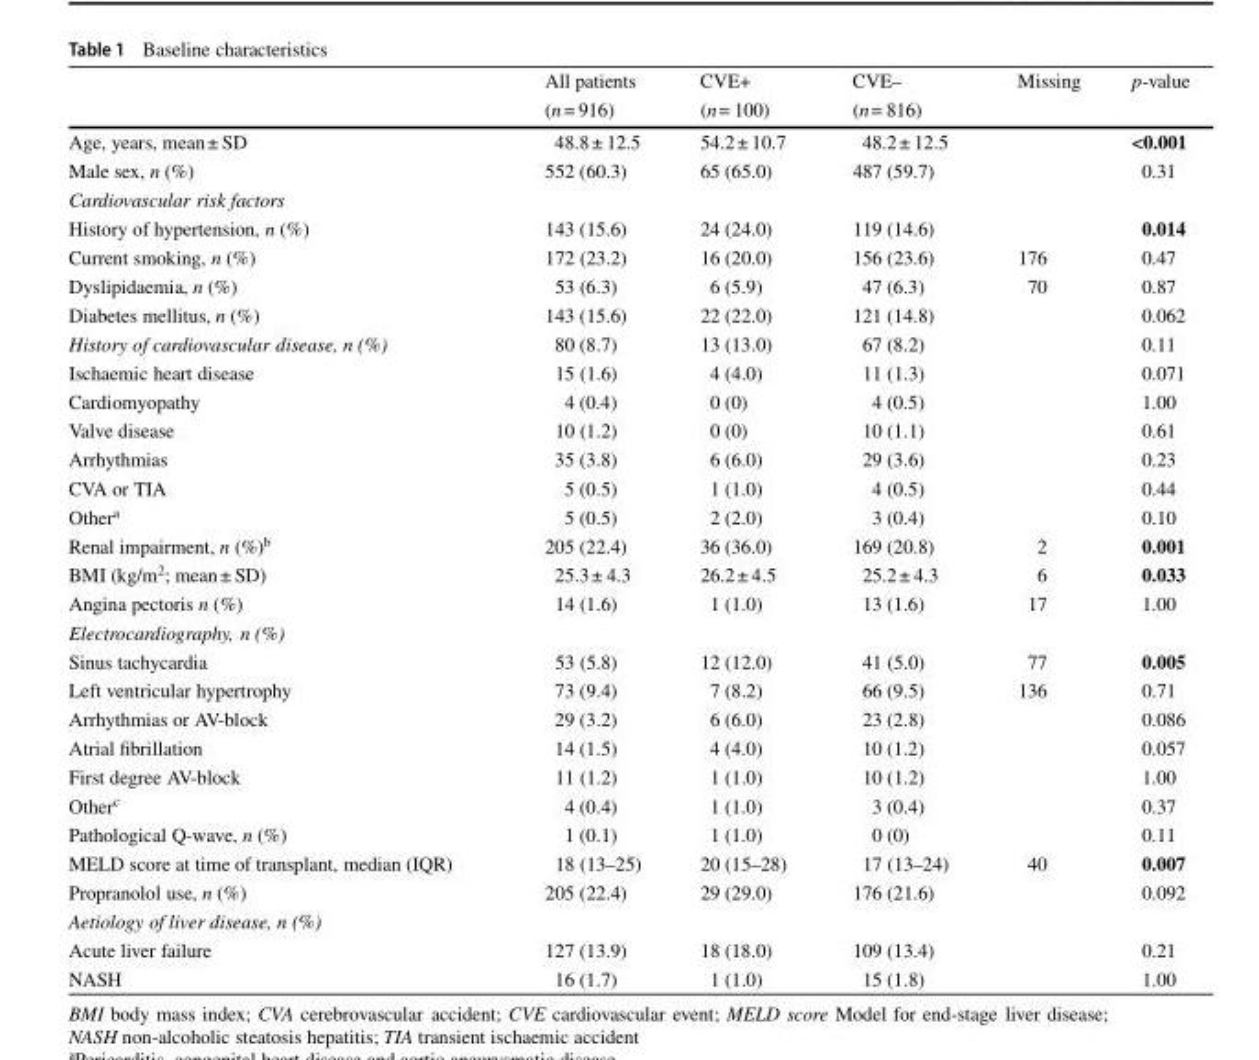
<table><thead><tr><td rowspan="2"></td><td rowspan="2">All patients (n= 916)</td><td rowspan="2">CVE+ (n= 100)</td><td rowspan="2">CVE– (n= 816)</td><td rowspan="2">Missing</td><td rowspan="2">p-value</td></tr><tr></tr></thead><tbody><tr><td>Age, years, mean± SD</td><td>48.8± 12.5</td><td>54.2± 10.7</td><td>48.2± 12.5</td><td></td><td>&lt;0.001</td></tr><tr><td>Male sex, n (%)</td><td>552 (60.3)</td><td>65 (65.0)</td><td>487 (59.7)</td><td></td><td>0.31</td></tr><tr><td colspan="6">Cardiovascular risk factors</td></tr><tr><td>History of hypertension, n (%)</td><td>143 (15.6)</td><td>24 (24.0)</td><td>119 (14.6)</td><td></td><td>0.014</td></tr><tr><td>Current smoking, n (%)</td><td>172 (23.2)</td><td>16 (20.0)</td><td>156 (23.6)</td><td>176</td><td>0.47</td></tr><tr><td>Dyslipidaemia, n (%)</td><td>53 (6.3)</td><td>6 (5.9)</td><td>47 (6.3)</td><td>70</td><td>0.87</td></tr><tr><td>Diabetes mellitus, n (%)</td><td>143 (15.6)</td><td>22 (22.0)</td><td>121 (14.8)</td><td></td><td>0.062</td></tr><tr><td>History of cardiovascular disease, n (%)</td><td>80 (8.7)</td><td>13 (13.0)</td><td>67 (8.2)</td><td></td><td>0.11</td></tr><tr><td>Ischaemic heart disease</td><td>15 (1.6)</td><td>4 (4.0)</td><td>11 (1.3)</td><td></td><td>0.071</td></tr><tr><td>Cardiomyopathy</td><td>4 (0.4)</td><td>0 (0)</td><td>4 (0.5)</td><td></td><td>1.00</td></tr><tr><td>Valve disease</td><td>10 (1.2)</td><td>0 (0)</td><td>10 (1.1)</td><td></td><td>0.61</td></tr><tr><td>Arrhythmias</td><td>35 (3.8)</td><td>6 (6.0)</td><td>29 (3.6)</td><td></td><td>0.23</td></tr><tr><td>CVA or TIA</td><td>5 (0.5)</td><td>1 (1.0)</td><td>4 (0.5)</td><td></td><td>0.44</td></tr><tr><td>Other<sup>a</sup></td><td>5 (0.5)</td><td>2 (2.0)</td><td>3 (0.4)</td><td></td><td>0.10</td></tr><tr><td>Renal impairment, n (%)<sup>b</sup></td><td>205 (22.4)</td><td>36 (36.0)</td><td>169 (20.8)</td><td>2</td><td>0.001</td></tr><tr><td>BMI (kg/m<sup>2</sup>; mean± SD)</td><td>25.3± 4.3</td><td>26.2± 4.5</td><td>25.2± 4.3</td><td>6</td><td>0.033</td></tr><tr><td>Angina pectoris n (%)</td><td>14 (1.6)</td><td>1 (1.0)</td><td>13 (1.6)</td><td>17</td><td>1.00</td></tr><tr><td colspan="6">Electrocardiography, n (%)</td></tr><tr><td>Sinus tachycardia</td><td>53 (5.8)</td><td>12 (12.0)</td><td>41 (5.0)</td><td>77</td><td>0.005</td></tr><tr><td>Left ventricular hypertrophy</td><td>73 (9.4)</td><td>7 (8.2)</td><td>66 (9.5)</td><td>136</td><td>0.71</td></tr><tr><td>Arrhythmias or AV-block</td><td>29 (3.2)</td><td>6 (6.0)</td><td>23 (2.8)</td><td></td><td>0.086</td></tr><tr><td>Atrial fibrillation</td><td>14 (1.5)</td><td>4 (4.0)</td><td>10 (1.2)</td><td></td><td>0.057</td></tr><tr><td>First degree AV-block</td><td>11 (1.2)</td><td>1 (1.0)</td><td>10 (1.2)</td><td></td><td>1.00</td></tr><tr><td>Other<sup>c</sup></td><td>4 (0.4)</td><td>1 (1.0)</td><td>3 (0.4)</td><td></td><td>0.37</td></tr><tr><td>Pathological Q-wave, n (%)</td><td>1 (0.1)</td><td>1 (1.0)</td><td>0 (0)</td><td></td><td>0.11</td></tr><tr><td>MELD score at time of transplant, median (IQR)</td><td>18 (13–25)</td><td>20 (15–28)</td><td>17 (13–24)</td><td>40</td><td>0.007</td></tr><tr><td>Propranolol use, n (%)</td><td>205 (22.4)</td><td>29 (29.0)</td><td>176 (21.6)</td><td></td><td>0.092</td></tr><tr><td colspan="6">Aetiology of liver disease, n (%)</td></tr><tr><td>Acute liver failure</td><td>127 (13.9)</td><td>18 (18.0)</td><td>109 (13.4)</td><td></td><td>0.21</td></tr><tr><td>NASH</td><td>16 (1.7)</td><td>1 (1.0)</td><td>15 (1.8)</td><td></td><td>1.00</td></tr></tbody></table>